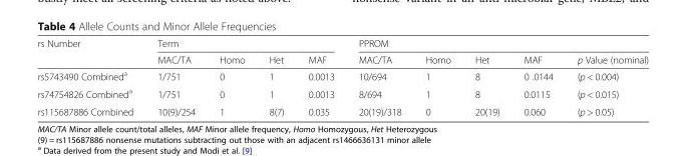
<table><thead><tr><td rowspan="2">rs Number</td><td colspan="4">Term</td><td colspan="5">PPROM</td></tr><tr><td>MAC/TA</td><td>Homo</td><td>Het</td><td>MAF</td><td>MAC/TA</td><td>Homo</td><td>Het</td><td>MAF</td><td>p Value (nominal)</td></tr></thead><tbody><tr><td>rs5743490 Combined<sup>a</sup></td><td>1/751</td><td>0</td><td>1</td><td>0.0013</td><td>10/694</td><td>1</td><td>8</td><td>0 .0144</td><td>(p &lt; 0.004)</td></tr><tr><td>rs74754826 Combined<sup>a</sup></td><td>1/751</td><td>0</td><td>1</td><td>0.0013</td><td>8/694</td><td>1</td><td>8</td><td>0.0115</td><td>(p &lt; 0.015)</td></tr><tr><td>rs115687886 Combined</td><td>10(9)/254</td><td>1</td><td>8(7)</td><td>0.035</td><td>20(19)/318</td><td>0</td><td>20(19)</td><td>0.060</td><td>(p &gt; 0.05)</td></tr></tbody></table>